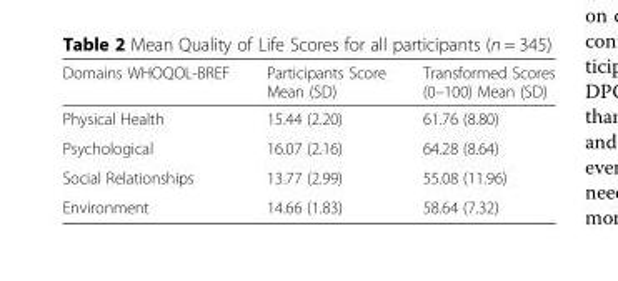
<table><thead><tr><td>Domains WHOQOL-BREF</td><td>Participants Score Mean (SD)</td><td>Transformed Scores (0–100) Mean (SD)</td></tr></thead><tbody><tr><td>Physical Health</td><td>15.44 (2.20)</td><td>61.76 (8.80)</td></tr><tr><td>Psychological</td><td>16.07 (2.16)</td><td>64.28 (8.64)</td></tr><tr><td>Social Relationships</td><td>13.77 (2.99)</td><td>55.08 (11.96)</td></tr><tr><td>Environment</td><td>14.66 (1.83)</td><td>58.64 (7.32)</td></tr></tbody></table>